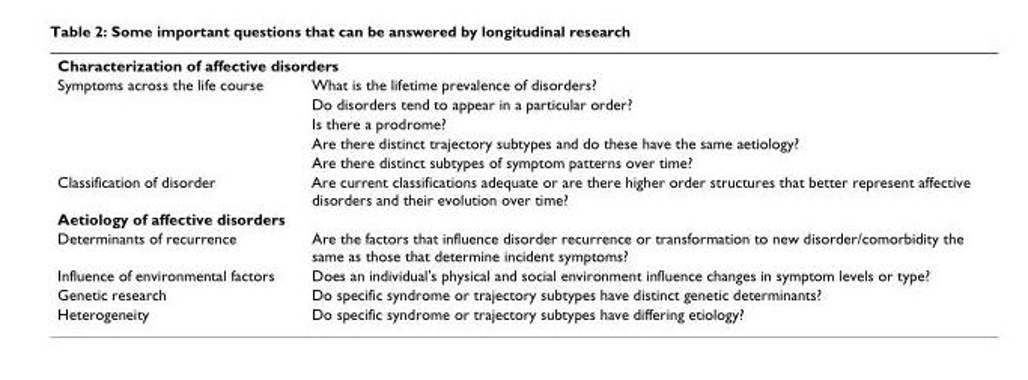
<table><tbody><tr><td colspan="2">Characterization of affective disorders</td></tr><tr><td rowspan="5">Symptoms across the life course</td><td>What is the lifetime prevalence of disorders?</td></tr><tr><td>Do disorders tend to appear in a particular order?</td></tr><tr><td>Is there a prodrome?</td></tr><tr><td>Are there distinct trajectory subtypes and do these have the same aetiology?</td></tr><tr><td>Are there distinct subtypes of symptom patterns over time?</td></tr><tr><td>Classification of disorder</td><td>Are current classifications adequate or are there higher order structures that better represent affective disorders and their evolution over time?</td></tr><tr><td colspan="2">Aetiology of affective disorders</td></tr><tr><td>Determinants of recurrence</td><td>Are the factors that influence disorder recurrence or transformation to new disorder/comorbidity the same as those that determine incident symptoms?</td></tr><tr><td>Influence of environmental factors</td><td>Does an individual&#x27;s physical and social environment influence changes in symptom levels or type?</td></tr><tr><td>Genetic research</td><td>Do specific syndrome or trajectory subtypes have distinct genetic determinants?</td></tr><tr><td>Heterogeneity</td><td>Do specific syndrome or trajectory subtypes have differing etiology?</td></tr></tbody></table>